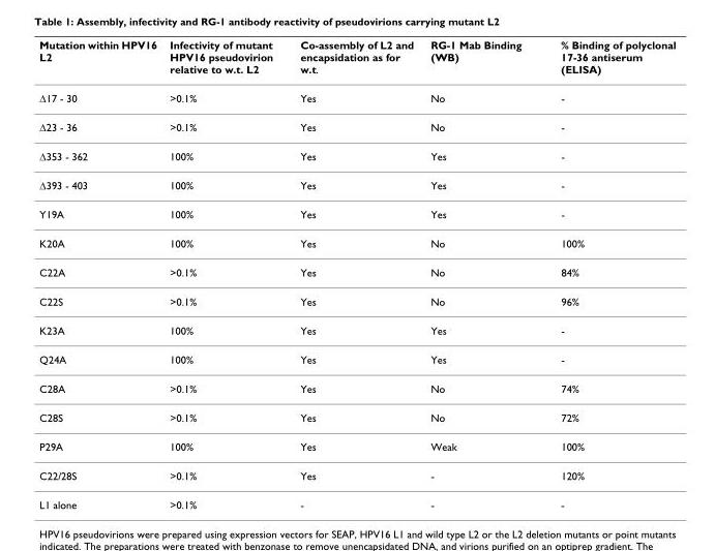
<table><thead><tr><td>Mutation within HPV16 L2</td><td>Infectivity of mutant HPV16 pseudovirion relative to w.t. L2</td><td>Co-assembly of L2 and encapsidation as for w.t.</td><td>RG-1 Mab Binding (WB)</td><td>% Binding of polyclonal 17-36 antiserum (ELISA)</td></tr></thead><tbody><tr><td>Δ17 - 30</td><td>&gt;0.1%</td><td>Yes</td><td>No</td><td>-</td></tr><tr><td>Δ23 - 36</td><td>&gt;0.1%</td><td>Yes</td><td>No</td><td>-</td></tr><tr><td>Δ353 - 362</td><td>100%</td><td>Yes</td><td>Yes</td><td>-</td></tr><tr><td>Δ393 - 403</td><td>100%</td><td>Yes</td><td>Yes</td><td>-</td></tr><tr><td>Y19A</td><td>100%</td><td>Yes</td><td>Yes</td><td>-</td></tr><tr><td>K20A</td><td>100%</td><td>Yes</td><td>No</td><td>100%</td></tr><tr><td>C22A</td><td>&gt;0.1%</td><td>Yes</td><td>No</td><td>84%</td></tr><tr><td>C22S</td><td>&gt;0.1%</td><td>Yes</td><td>No</td><td>96%</td></tr><tr><td>K23A</td><td>100%</td><td>Yes</td><td>Yes</td><td>-</td></tr><tr><td>Q24A</td><td>100%</td><td>Yes</td><td>Yes</td><td>-</td></tr><tr><td>C28A</td><td>&gt;0.1%</td><td>Yes</td><td>No</td><td>74%</td></tr><tr><td>C28S</td><td>&gt;0.1%</td><td>Yes</td><td>No</td><td>72%</td></tr><tr><td>P29A</td><td>100%</td><td>Yes</td><td>Weak</td><td>100%</td></tr><tr><td>C22/28S</td><td>&gt;0.1%</td><td>Yes</td><td>-</td><td>120%</td></tr><tr><td>L1 alone</td><td>&gt;0.1%</td><td>-</td><td>-</td><td>-</td></tr></tbody></table>